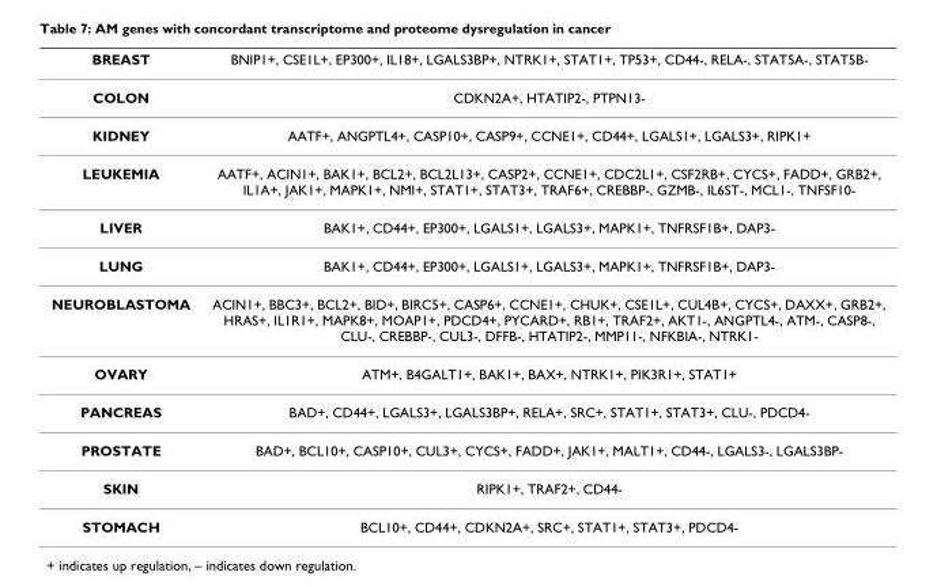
<table><thead><tr><td>BREAST</td><td>BNIP1+, CSE1L+, EP300+, IL18+, LGALS3BP+, NTRK1+, STAT1+, TP53+, CD44-, RELA-, STAT5A-, STAT5B-</td></tr></thead><tbody><tr><td>COLON</td><td>CDKN2A+, HTATIP2-, PTPN13-</td></tr><tr><td>KIDNEY</td><td>AATF+, ANGPTL4+, CASP10+, CASP9+, CCNE1+, CD44+, LGALS1+, LGALS3+, RIPK1+</td></tr><tr><td>LEUKEMIA</td><td>AATF+, ACIN1+, BAK1+, BCL2+, BCL2L13+, CASP2+, CCNE1+, CDC2L1+, CSF2RB+, CYCS+, FADD+, GRB2+, IL1A+, JAK1+, MAPK1+, NMI+, STAT1+, STAT3+, TRAF6+, CREBBP-, GZMB-, IL6ST-, MCL1-, TNFSF10-</td></tr><tr><td>LIVER</td><td>BAK1+, CD44+, EP300+, LGALS1+, LGALS3+, MAPK1+, TNFRSF1B+, DAP3-</td></tr><tr><td>LUNG</td><td>BAK1+, CD44+, EP300+, LGALS1+, LGALS3+, MAPK1+, TNFRSF1B+, DAP3-</td></tr><tr><td>NEUROBLASTOMA</td><td>ACIN1+, BBC3+, BCL2+, BID+, BIRC5+, CASP6+, CCNE1+, CHUK+, CSE1L+, CUL4B+, CYCS+, DAXX+, GRB2+, HRAS+, IL1R1+, MAPK8+, MOAP1+, PDCD4+, PYCARD+, RB1+, TRAF2+, AKT1-, ANGPTL4-, ATM-, CASP8-, CLU-, CREBBP-, CUL3-, DFFB-, HTATIP2-, MMP11-, NFKBIA-, NTRK1-</td></tr><tr><td>OVARY</td><td>ATM+, B4GALT1+, BAK1+, BAX+, NTRK1+, PIK3R1+, STAT1+</td></tr><tr><td>PANCREAS</td><td>BAD+, CD44+, LGALS3+, LGALS3BP+, RELA+, SRC+, STAT1+, STAT3+, CLU-, PDCD4-</td></tr><tr><td>PROSTATE</td><td>BAD+, BCL10+, CASP10+, CUL3+, CYCS+, FADD+, JAK1+, MALT1+, CD44-, LGALS3-, LGALS3BP-</td></tr><tr><td>SKIN</td><td>RIPK1+, TRAF2+, CD44-</td></tr><tr><td>STOMACH</td><td>BCL10+, CD44+, CDKN2A+, SRC+, STAT1+, STAT3+, PDCD4-</td></tr></tbody></table>